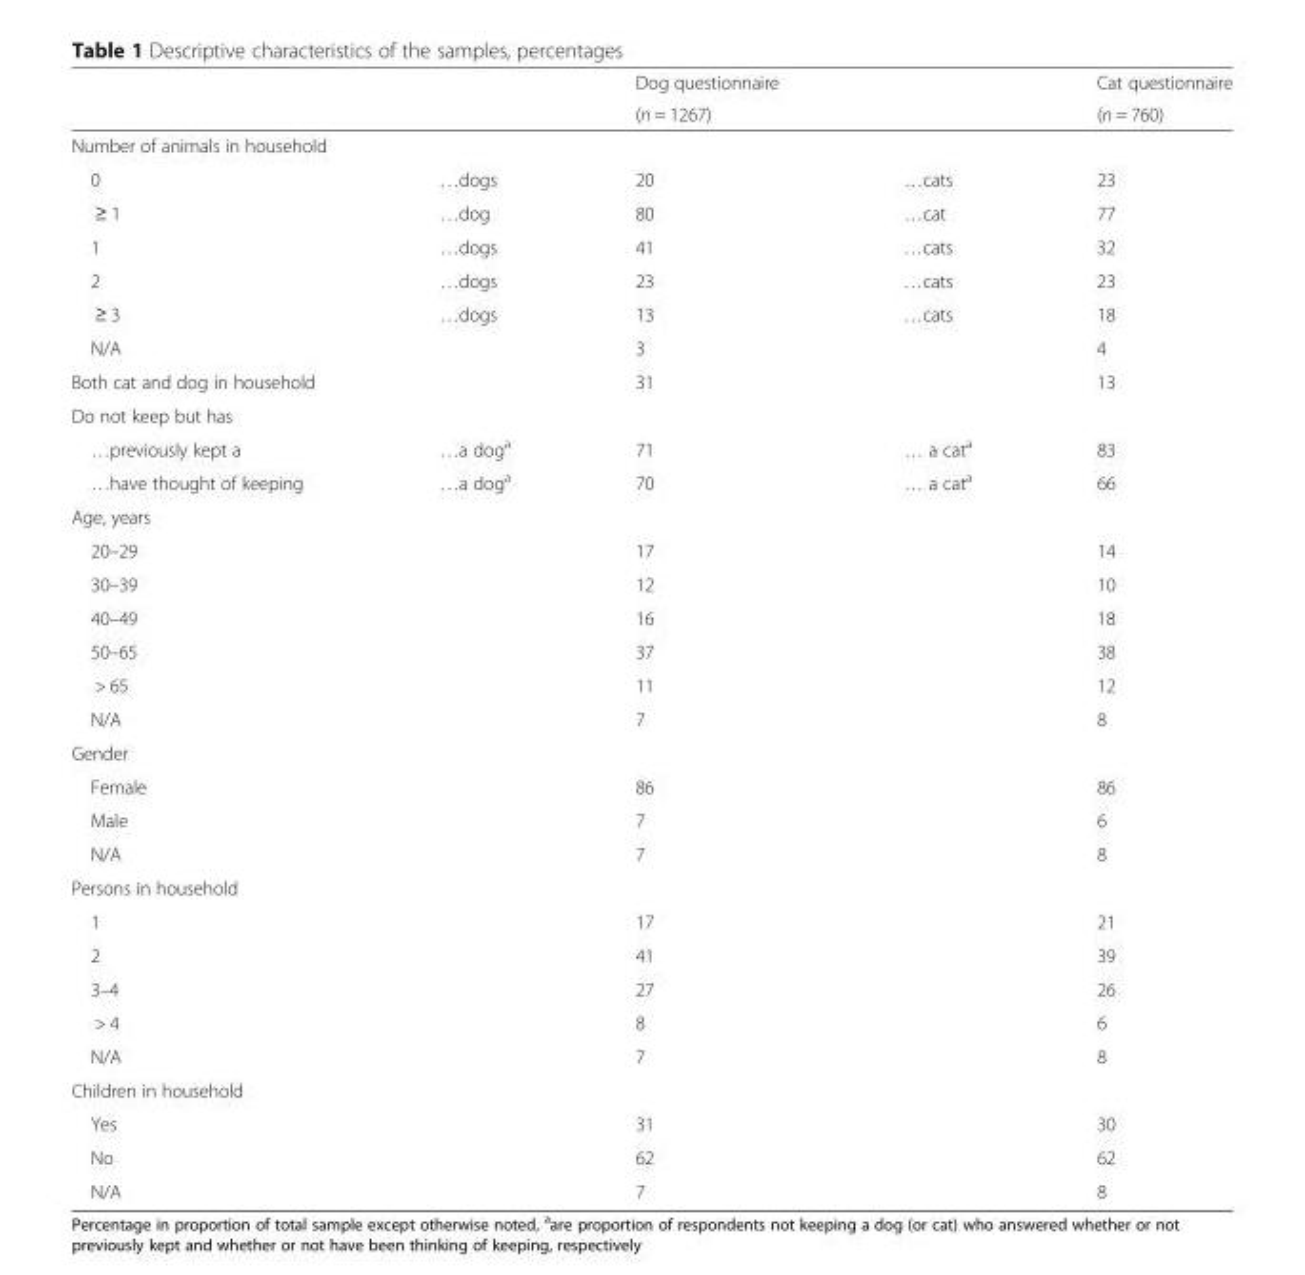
<table><thead><tr><td rowspan="2"></td><td rowspan="2"></td><td rowspan="2">Dog questionnaire (n = 1267)</td><td rowspan="2"></td><td rowspan="2">Cat questionnaire (n = 760)</td></tr><tr></tr></thead><tbody><tr><td colspan="5">Number of animals in household</td></tr><tr><td>0</td><td>…dogs</td><td>20</td><td>…cats</td><td>23</td></tr><tr><td>≥ 1</td><td>…dog</td><td>80</td><td>…cat</td><td>77</td></tr><tr><td>1</td><td>…dogs</td><td>41</td><td>…cats</td><td>32</td></tr><tr><td>2</td><td>…dogs</td><td>23</td><td>…cats</td><td>23</td></tr><tr><td>≥ 3</td><td>…dogs</td><td>13</td><td>…cats</td><td>18</td></tr><tr><td>N/A</td><td></td><td>3</td><td></td><td>4</td></tr><tr><td>Both cat and dog in household</td><td></td><td>31</td><td></td><td>13</td></tr><tr><td colspan="5">Do not keep but has</td></tr><tr><td>…previously kept a</td><td>…a dog<sup>a</sup></td><td>71</td><td>… a cat<sup>a</sup></td><td>83</td></tr><tr><td>…have thought of keeping</td><td>…a dog<sup>a</sup></td><td>70</td><td>… a cat<sup>a</sup></td><td>66</td></tr><tr><td colspan="5">Age, years</td></tr><tr><td>20–29</td><td></td><td>17</td><td></td><td>14</td></tr><tr><td>30–39</td><td></td><td>12</td><td></td><td>10</td></tr><tr><td>40–49</td><td></td><td>16</td><td></td><td>18</td></tr><tr><td>50–65</td><td></td><td>37</td><td></td><td>38</td></tr><tr><td>&gt; 65</td><td></td><td>11</td><td></td><td>12</td></tr><tr><td>N/A</td><td></td><td>7</td><td></td><td>8</td></tr><tr><td colspan="5">Gender</td></tr><tr><td>Female</td><td></td><td>86</td><td></td><td>86</td></tr><tr><td>Male</td><td></td><td>7</td><td></td><td>6</td></tr><tr><td>N/A</td><td></td><td>7</td><td></td><td>8</td></tr><tr><td colspan="5">Persons in household</td></tr><tr><td>1</td><td></td><td>17</td><td></td><td>21</td></tr><tr><td>2</td><td></td><td>41</td><td></td><td>39</td></tr><tr><td>3–4</td><td></td><td>27</td><td></td><td>26</td></tr><tr><td>&gt; 4</td><td></td><td>8</td><td></td><td>6</td></tr><tr><td>N/A</td><td></td><td>7</td><td></td><td>8</td></tr><tr><td colspan="5">Children in household</td></tr><tr><td>Yes</td><td></td><td>31</td><td></td><td>30</td></tr><tr><td>No</td><td></td><td>62</td><td></td><td>62</td></tr><tr><td>N/A</td><td></td><td>7</td><td></td><td>8</td></tr></tbody></table>